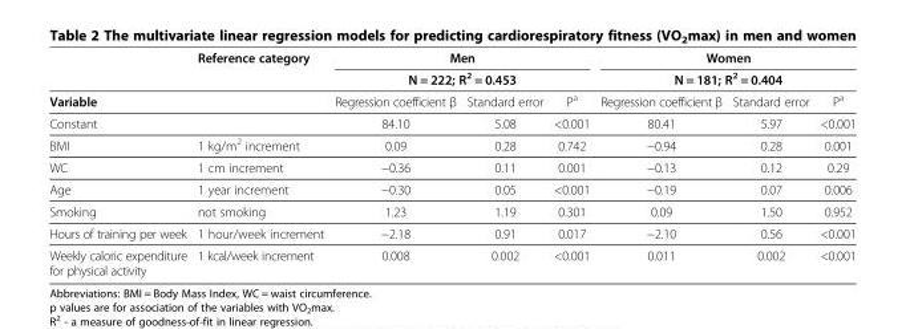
<table><thead><tr><td rowspan="3">Variable</td><td rowspan="3">Reference category</td><td rowspan="2" colspan="3">Men N = 222; R<sup>2</sup> = 0.453</td><td rowspan="2" colspan="3">Women N = 181; R<sup>2</sup> = 0.404</td></tr><tr></tr><tr><td>Regression coefficient β</td><td>Standard error</td><td>P<sup>a</sup></td><td>Regression coefficient β</td><td>Standard error</td><td>P<sup>a</sup></td></tr></thead><tbody><tr><td>Constant</td><td></td><td>84.10</td><td>5.08</td><td>&lt;0.001</td><td>80.41</td><td>5.97</td><td>&lt;0.001</td></tr><tr><td>BMI</td><td>1 kg/m<sup>2</sup> increment</td><td>0.09</td><td>0.28</td><td>0.742</td><td>−0.94</td><td>0.28</td><td>0.001</td></tr><tr><td>WC</td><td>1 cm increment</td><td>−0.36</td><td>0.11</td><td>0.001</td><td>−0.13</td><td>0.12</td><td>0.29</td></tr><tr><td>Age</td><td>1 year increment</td><td>−0.30</td><td>0.05</td><td>&lt;0.001</td><td>−0.19</td><td>0.07</td><td>0.006</td></tr><tr><td>Smoking</td><td>not smoking</td><td>1.23</td><td>1.19</td><td>0.301</td><td>0.09</td><td>1.50</td><td>0.952</td></tr><tr><td>Hours of training per week</td><td>1 hour/week increment</td><td>−2.18</td><td>0.91</td><td>0.017</td><td>−2.10</td><td>0.56</td><td>&lt;0.001</td></tr><tr><td>Weekly caloric expenditure for physical activity</td><td>1 kcal/week increment</td><td>0.008</td><td>0.002</td><td>&lt;0.001</td><td>0.011</td><td>0.002</td><td>&lt;0.001</td></tr></tbody></table>